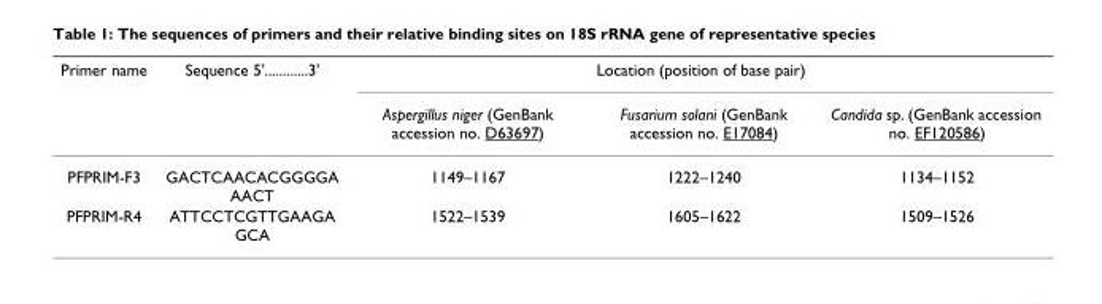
<table><thead><tr><td rowspan="2">Primer name</td><td rowspan="2">Sequence 5&#x27;............3&#x27;</td><td colspan="3">Location (position of base pair)</td></tr><tr><td>Aspergillus niger (GenBank accession no. D63697)</td><td>Fusarium solani (GenBank accession no. E17084)</td><td>Candida sp. (GenBank accession no. EF120586)</td></tr></thead><tbody><tr><td>PFPRIM-F3</td><td>GACTCAACACGGGGA AACT</td><td>1149–1167</td><td>1222–1240</td><td>1134–1152</td></tr><tr><td>PFPRIM-R4</td><td>ATTCCTCGTTGAAGA GCA</td><td>1522–1539</td><td>1605–1622</td><td>1509–1526</td></tr></tbody></table>